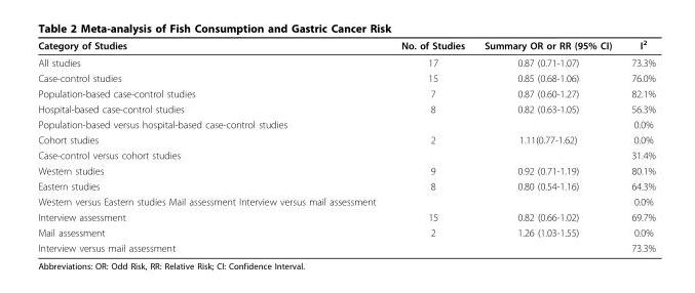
<table><thead><tr><td>Category of Studies</td><td>No. of Studies</td><td>Summary OR or RR (95% CI)</td><td>I<sup>2</sup></td></tr></thead><tbody><tr><td>All studies</td><td>17</td><td>0.87 (0.71-1.07)</td><td>73.3%</td></tr><tr><td>Case-control studies</td><td>15</td><td>0.85 (0.68-1.06)</td><td>76.0%</td></tr><tr><td>Population-based case-control studies</td><td>7</td><td>0.87 (0.60-1.27)</td><td>82.1%</td></tr><tr><td>Hospital-based case-control studies</td><td>8</td><td>0.82 (0.63-1.05)</td><td>56.3%</td></tr><tr><td>Population-based versus hospital-based case-control studies</td><td></td><td></td><td>0.0%</td></tr><tr><td>Cohort studies</td><td>2</td><td>1.11(0.77-1.62)</td><td>0.0%</td></tr><tr><td>Case-control versus cohort studies</td><td></td><td></td><td>31.4%</td></tr><tr><td>Western studies</td><td>9</td><td>0.92 (0.71-1.19)</td><td>80.1%</td></tr><tr><td>Eastern studies</td><td>8</td><td>0.80 (0.54-1.16)</td><td>64.3%</td></tr><tr><td>Western versus Eastern studies Mail assessment Interview versus mail assessment</td><td></td><td></td><td>0.0%</td></tr><tr><td>Interview assessment</td><td>15</td><td>0.82 (0.66-1.02)</td><td>69.7%</td></tr><tr><td>Mail assessment</td><td>2</td><td>1.26 (1.03-1.55)</td><td>0.0%</td></tr><tr><td>Interview versus mail assessment</td><td></td><td></td><td>73.3%</td></tr></tbody></table>